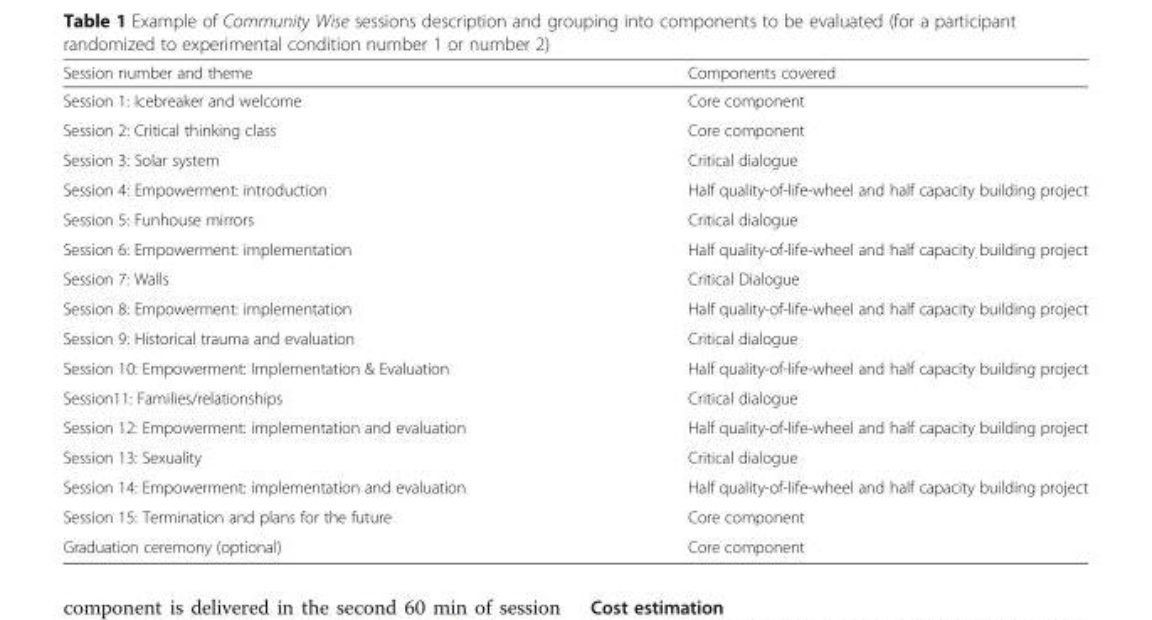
<table><thead><tr><td>Session number and theme</td><td>Components covered</td></tr></thead><tbody><tr><td>Session 1: Icebreaker and welcome</td><td>Core component</td></tr><tr><td>Session 2: Critical thinking class</td><td>Core component</td></tr><tr><td>Session 3: Solar system</td><td>Critical dialogue</td></tr><tr><td>Session 4: Empowerment: introduction</td><td>Half quality-of-life-wheel and half capacity building project</td></tr><tr><td>Session 5: Funhouse mirrors</td><td>Critical dialogue</td></tr><tr><td>Session 6: Empowerment: implementation</td><td>Half quality-of-life-wheel and half capacity building project</td></tr><tr><td>Session 7: Walls</td><td>Critical Dialogue</td></tr><tr><td>Session 8: Empowerment: implementation</td><td>Half quality-of-life-wheel and half capacity building project</td></tr><tr><td>Session 9: Historical trauma and evaluation</td><td>Critical dialogue</td></tr><tr><td>Session 10: Empowerment: Implementation &amp; Evaluation</td><td>Half quality-of-life-wheel and half capacity building project</td></tr><tr><td>Session11: Families/relationships</td><td>Critical dialogue</td></tr><tr><td>Session 12: Empowerment: implementation and evaluation</td><td>Half quality-of-life-wheel and half capacity building project</td></tr><tr><td>Session 13: Sexuality</td><td>Critical dialogue</td></tr><tr><td>Session 14: Empowerment: implementation and evaluation</td><td>Half quality-of-life-wheel and half capacity building project</td></tr><tr><td>Session 15: Termination and plans for the future</td><td>Core component</td></tr><tr><td>Graduation ceremony (optional)</td><td>Core component</td></tr></tbody></table>